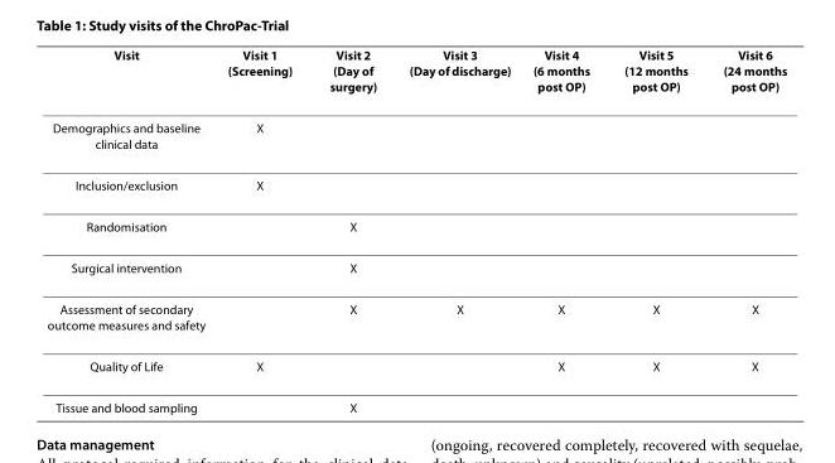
<table><thead><tr><td>Visit</td><td>Visit 1 (Screening)</td><td>Visit 2 (Day of surgery)</td><td>Visit 3 (Day of discharge)</td><td>Visit 4 (6 months post OP)</td><td>Visit 5 (12 months post OP)</td><td>Visit 6 (24 months post OP)</td></tr></thead><tbody><tr><td>Demographics and baseline clinical data</td><td>X</td><td></td><td></td><td></td><td></td><td></td></tr><tr><td>Inclusion/exclusion</td><td>X</td><td></td><td></td><td></td><td></td><td></td></tr><tr><td>Randomisation</td><td></td><td>X</td><td></td><td></td><td></td><td></td></tr><tr><td>Surgical intervention</td><td></td><td>X</td><td></td><td></td><td></td><td></td></tr><tr><td>Assessment of secondary outcome measures and safety</td><td></td><td>X</td><td>X</td><td>X</td><td>X</td><td>X</td></tr><tr><td>Quality of Life</td><td>X</td><td></td><td></td><td>X</td><td>X</td><td>X</td></tr><tr><td>Tissue and blood sampling</td><td></td><td>X</td><td></td><td></td><td></td><td></td></tr></tbody></table>